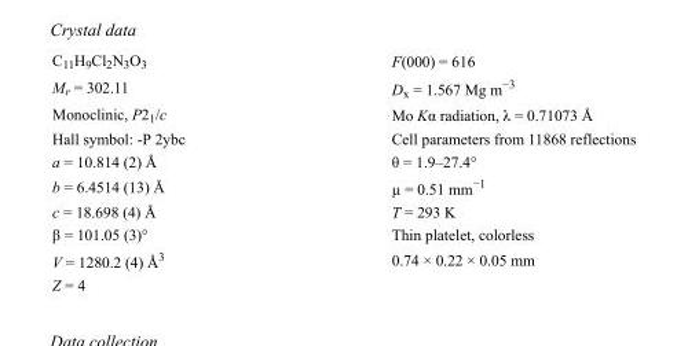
<table><tbody><tr><td>C<sub>11</sub>H<sub>9</sub>Cl<sub>2</sub>N<sub>3</sub>O<sub>3</sub></td><td>F(000) = 616</td></tr><tr><td>M<sub>r</sub> = 302.11</td><td>D<sub>x</sub> = 1.567 Mg m<sup>−3</sup></td></tr><tr><td>Monoclinic, P2<sub>1</sub>/c</td><td>Mo Kα radiation, λ = 0.71073 Å</td></tr><tr><td>Hall symbol: -P 2ybc</td><td>Cell parameters from 11868 reflections</td></tr><tr><td>a = 10.814 (2) Å</td><td>θ = 1.9–27.4°</td></tr><tr><td>b = 6.4514 (13) Å</td><td>µ = 0.51 mm<sup>−1</sup></td></tr><tr><td>c = 18.698 (4) Å</td><td>T = 293 K</td></tr><tr><td>β = 101.05 (3)°</td><td>Thin platelet, colorless</td></tr><tr><td>V = 1280.2 (4) Å<sup>3</sup></td><td>0.74 × 0.22 × 0.05 mm</td></tr><tr><td>Z = 4</td><td></td></tr></tbody></table>